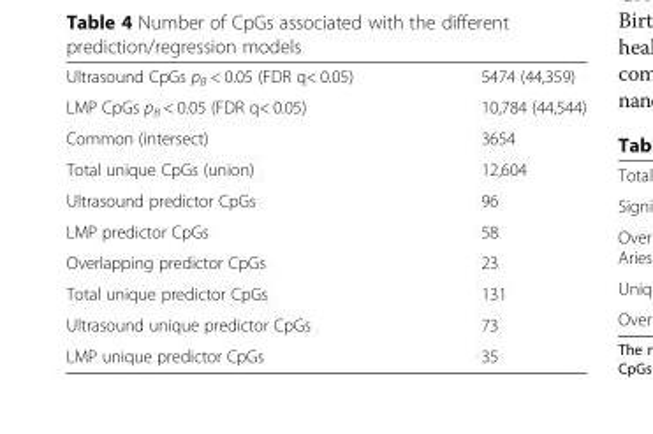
<table><tbody><tr><td>Ultrasound CpGs p<sub>B</sub> &lt; 0.05 (FDR q&lt; 0.05)</td><td>5474 (44,359)</td></tr><tr><td>LMP CpGs p<sub>B</sub> &lt; 0.05 (FDR q&lt; 0.05)</td><td>10,784 (44,544)</td></tr><tr><td>Common (intersect)</td><td>3654</td></tr><tr><td>Total unique CpGs (union)</td><td>12,604</td></tr><tr><td>Ultrasound predictor CpGs</td><td>96</td></tr><tr><td>LMP predictor CpGs</td><td>58</td></tr><tr><td>Overlapping predictor CpGs</td><td>23</td></tr><tr><td>Total unique predictor CpGs</td><td>131</td></tr><tr><td>Ultrasound unique predictor CpGs</td><td>73</td></tr><tr><td>LMP unique predictor CpGs</td><td>35</td></tr></tbody></table>